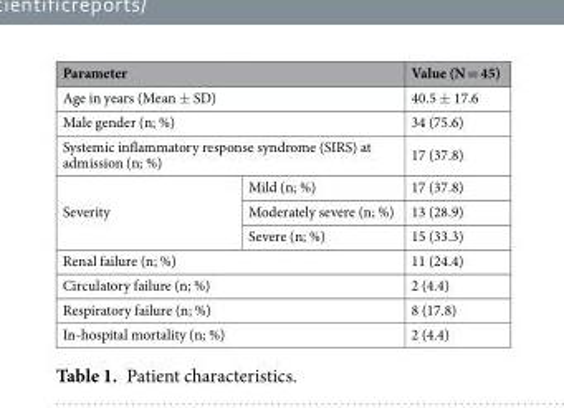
<table><thead><tr><td colspan="2">Parameter</td><td>Value (N = 45)</td></tr></thead><tbody><tr><td colspan="2">Age in years (Mean ± SD)</td><td>40.5 ± 17.6</td></tr><tr><td colspan="2">Male gender (n; %)</td><td>34 (75.6)</td></tr><tr><td colspan="2">Systemic inflammatory response syndrome (SIRS) at admission (n; %)</td><td>17 (37.8)</td></tr><tr><td rowspan="3">Severity</td><td>Mild (n; %)</td><td>17 (37.8)</td></tr><tr><td>Moderately severe (n; %)</td><td>13 (28.9)</td></tr><tr><td>Severe (n; %)</td><td>15 (33.3)</td></tr><tr><td colspan="2">Renal failure (n; %)</td><td>11 (24.4)</td></tr><tr><td colspan="2">Circulatory failure (n; %)</td><td>2 (4.4)</td></tr><tr><td colspan="2">Respiratory failure (n; %)</td><td>8 (17.8)</td></tr><tr><td colspan="2">In-hospital mortality (n; %)</td><td>2 (4.4)</td></tr></tbody></table>